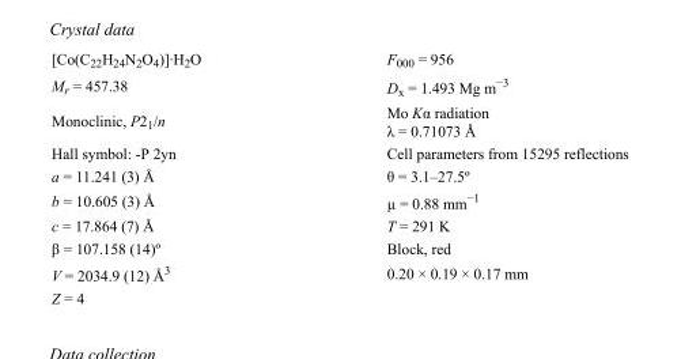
<table><tbody><tr><td>[Co(C<sub>22</sub>H<sub>24</sub>N<sub>2</sub>O<sub>4</sub>)]·H<sub>2</sub>O</td><td>F000 = 956</td></tr><tr><td>M<sub>r</sub> = 457.38</td><td>D<sub>x</sub> = 1.493 Mg m<sup>−3</sup></td></tr><tr><td>Monoclinic, P2<sub>1</sub>/n</td><td>Mo Kα radiation λ = 0.71073 Å</td></tr><tr><td>Hall symbol: -P 2yn</td><td>Cell parameters from 15295 reflections</td></tr><tr><td>a = 11.241 (3) Å</td><td>θ = 3.1–27.5º</td></tr><tr><td>b = 10.605 (3) Å</td><td>µ = 0.88 mm<sup>−1</sup></td></tr><tr><td>c = 17.864 (7) Å</td><td>T = 291 K</td></tr><tr><td>β = 107.158 (14)º</td><td>Block, red</td></tr><tr><td>V = 2034.9 (12) Å<sup>3</sup></td><td>0.20 × 0.19 × 0.17 mm</td></tr><tr><td>Z = 4</td><td></td></tr></tbody></table>